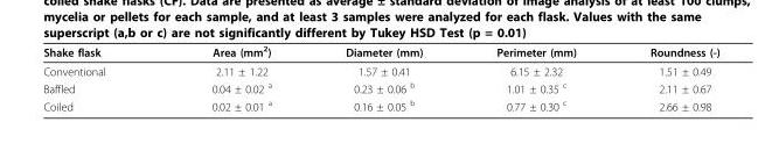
<table><thead><tr><td>Shake flask</td><td>Area (mm<sup>2</sup>)</td><td>Diameter (mm)</td><td>Perimeter (mm)</td><td>Roundness (-)</td></tr></thead><tbody><tr><td>Conventional</td><td>2.11 ± 1.22</td><td>1.57 ± 0.41</td><td>6.15 ± 2.32</td><td>1.51 ± 0.49</td></tr><tr><td>Baffled</td><td>0.04 ± 0.02 <sup>a</sup></td><td>0.23 ± 0.06 <sup>b</sup></td><td>1.01 ± 0.35 <sup>c</sup></td><td>2.11 ± 0.67</td></tr><tr><td>Coiled</td><td>0.02 ± 0.01 <sup>a</sup></td><td>0.16 ± 0.05 <sup>b</sup></td><td>0.77 ± 0.30 <sup>c</sup></td><td>2.66 ± 0.98</td></tr></tbody></table>